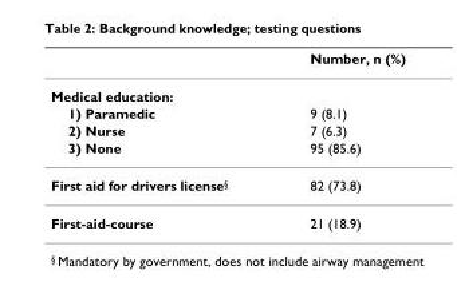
<table><thead><tr><td></td><td>Number, n (%)</td></tr></thead><tbody><tr><td colspan="2">Medical education:</td></tr><tr><td>1) Paramedic</td><td>9 (8.1)</td></tr><tr><td>2) Nurse</td><td>7 (6.3)</td></tr><tr><td>3) None</td><td>95 (85.6)</td></tr><tr><td>First aid for drivers license<sup>§</sup></td><td>82 (73.8)</td></tr><tr><td>First-aid-course</td><td>21 (18.9)</td></tr></tbody></table>